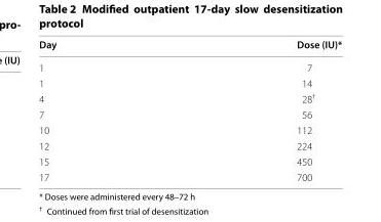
<table><thead><tr><td>Day</td><td>Dose (IU)*</td></tr></thead><tbody><tr><td>1</td><td>7</td></tr><tr><td>1</td><td>14</td></tr><tr><td>4</td><td>28<sup>†</sup></td></tr><tr><td>7</td><td>56</td></tr><tr><td>10</td><td>112</td></tr><tr><td>12</td><td>224</td></tr><tr><td>15</td><td>450</td></tr><tr><td>17</td><td>700</td></tr></tbody></table>